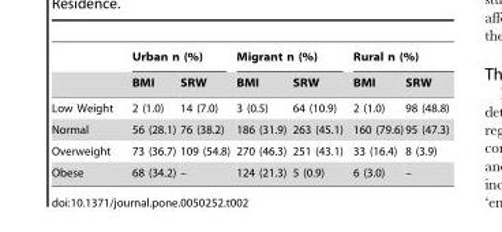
<table><thead><tr><td rowspan="2"></td><td colspan="2">Urban n (%)</td><td colspan="2">Migrant n (%)</td><td colspan="2">Rural n (%)</td></tr><tr><td>BMI</td><td>SRW</td><td>BMI</td><td>SRW</td><td>BMI</td><td>SRW</td></tr></thead><tbody><tr><td>Low Weight</td><td>2 (1.0)</td><td>14 (7.0)</td><td>3 (0.5)</td><td>64 (10.9)</td><td>2 (1.0)</td><td>98 (48.8)</td></tr><tr><td>Normal</td><td>56 (28.1)</td><td>76 (38.2)</td><td>186 (31.9)</td><td>263 (45.1)</td><td>160 (79.6)</td><td>95 (47.3)</td></tr><tr><td>Overweight</td><td>73 (36.7)</td><td>109 (54.8)</td><td>270 (46.3)</td><td>251 (43.1)</td><td>33 (16.4)</td><td>8 (3.9)</td></tr><tr><td>Obese</td><td>68 (34.2)</td><td>–</td><td>124 (21.3)</td><td>5 (0.9)</td><td>6 (3.0)</td><td>–</td></tr></tbody></table>